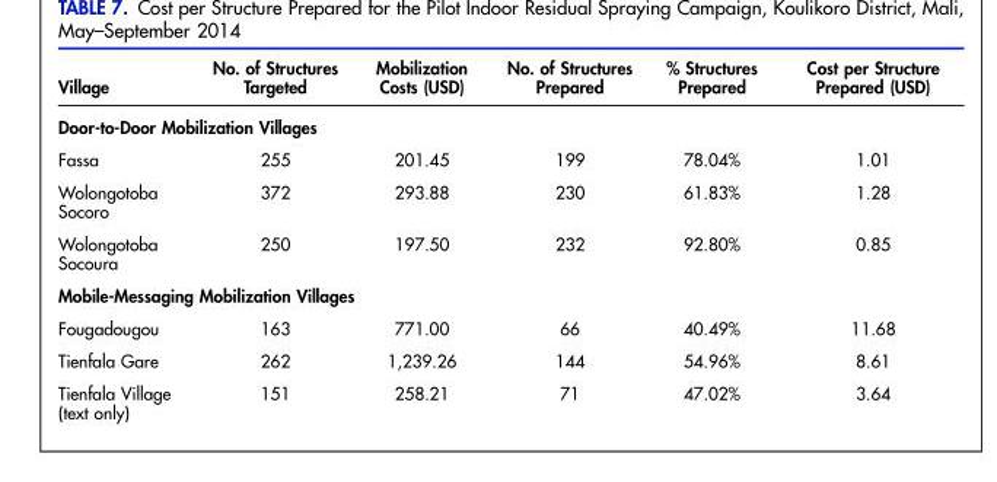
<table><thead><tr><td>Village</td><td>No. of Structures Targeted</td><td>Mobilization Costs (USD)</td><td>No. of Structures Prepared</td><td>% Structures Prepared</td><td>Cost per Structure Prepared (USD)</td></tr></thead><tbody><tr><td colspan="6">Door-to-Door Mobilization Villages</td></tr><tr><td>Fassa</td><td>255</td><td>201.45</td><td>199</td><td>78.04%</td><td>1.01</td></tr><tr><td>Wolongotoba Socoro</td><td>372</td><td>293.88</td><td>230</td><td>61.83%</td><td>1.28</td></tr><tr><td>Wolongotoba Socoura</td><td>250</td><td>197.50</td><td>232</td><td>92.80%</td><td>0.85</td></tr><tr><td colspan="6">Mobile-Messaging Mobilization Villages</td></tr><tr><td>Fougadougou</td><td>163</td><td>771.00</td><td>66</td><td>40.49%</td><td>11.68</td></tr><tr><td>Tienfala Gare</td><td>262</td><td>1,239.26</td><td>144</td><td>54.96%</td><td>8.61</td></tr><tr><td>Tienfala Village (text only)</td><td>151</td><td>258.21</td><td>71</td><td>47.02%</td><td>3.64</td></tr></tbody></table>